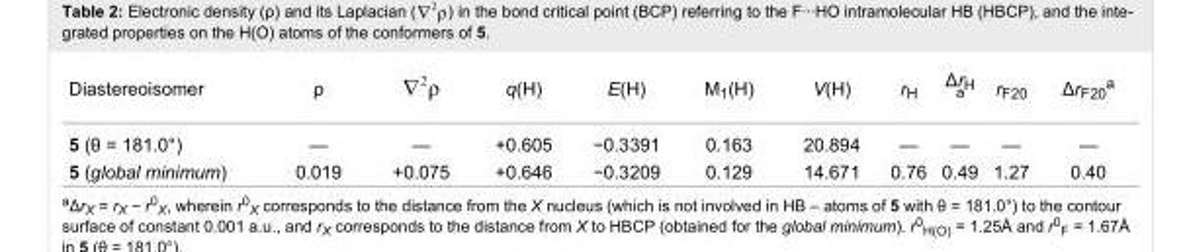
<table><tbody><tr><td>Diastereoisomer</td><td>ρ</td><td></td><td>q(H)</td><td>E(H)</td><td>M<sub>1</sub>(H)</td><td>V(H)</td><td>r<sub>H</sub></td><td>Δr<sub>H</sub> <sup>a</sup></td><td>r<sub>F20</sub></td><td>Δr<sub>F20</sub><sup>a</sup></td></tr><tr><td>5 (θ = 181.0°)</td><td>—</td><td>—</td><td>+0.605</td><td>−0.3391</td><td>0.163</td><td>20.894</td><td>—</td><td>—</td><td>—</td><td>—</td></tr><tr><td>5 (global minimum)</td><td>0.019</td><td>+0.075</td><td>+0.646</td><td>−0.3209</td><td>0.129</td><td>14.671</td><td>0.76</td><td>0.49</td><td>1.27</td><td>0.40</td></tr></tbody></table>